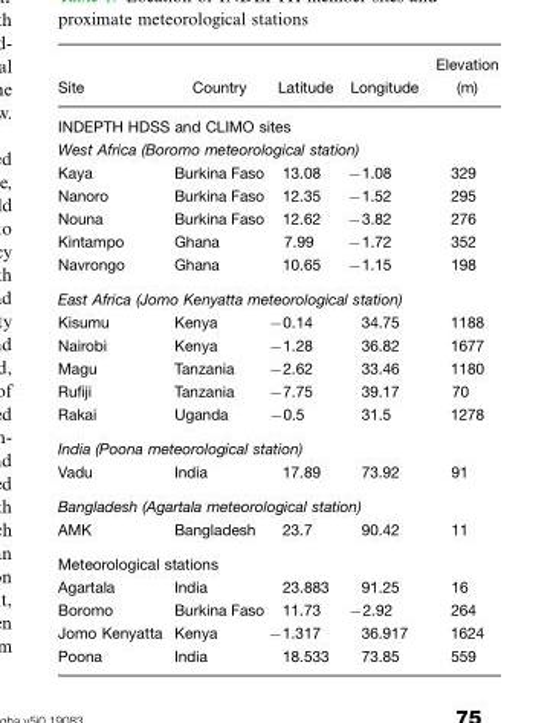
<table><thead><tr><td>Site</td><td>Country</td><td>Latitude</td><td>Longitude</td><td>Elevation (m)</td></tr></thead><tbody><tr><td colspan="5">INDEPTH HDSS and CLIMO sites</td></tr><tr><td colspan="5">West Africa (Boromo meteorological station)</td></tr><tr><td>Kaya</td><td>Burkina Faso</td><td>13.08</td><td>−1.08</td><td>329</td></tr><tr><td>Nanoro</td><td>Burkina Faso</td><td>12.35</td><td>−1.52</td><td>295</td></tr><tr><td>Nouna</td><td>Burkina Faso</td><td>12.62</td><td>−3.82</td><td>276</td></tr><tr><td>Kintampo</td><td>Ghana</td><td>7.99</td><td>−1.72</td><td>352</td></tr><tr><td>Navrongo</td><td>Ghana</td><td>10.65</td><td>−1.15</td><td>198</td></tr><tr><td colspan="5">East Africa (Jomo Kenyatta meteorological station)</td></tr><tr><td>Kisumu</td><td>Kenya</td><td>−0.14</td><td>34.75</td><td>1188</td></tr><tr><td>Nairobi</td><td>Kenya</td><td>−1.28</td><td>36.82</td><td>1677</td></tr><tr><td>Magu</td><td>Tanzania</td><td>−2.62</td><td>33.46</td><td>1180</td></tr><tr><td>Rufiji</td><td>Tanzania</td><td>−7.75</td><td>39.17</td><td>70</td></tr><tr><td>Rakai</td><td>Uganda</td><td>−0.5</td><td>31.5</td><td>1278</td></tr><tr><td colspan="5">India (Poona meteorological station)</td></tr><tr><td>Vadu</td><td>India</td><td>17.89</td><td>73.92</td><td>91</td></tr><tr><td colspan="5">Bangladesh (Agartala meteorological station)</td></tr><tr><td>AMK</td><td>Bangladesh</td><td>23.7</td><td>90.42</td><td>11</td></tr><tr><td colspan="5">Meteorological stations</td></tr><tr><td>Agartala</td><td>India</td><td>23.883</td><td>91.25</td><td>16</td></tr><tr><td>Boromo</td><td>Burkina Faso</td><td>11.73</td><td>−2.92</td><td>264</td></tr><tr><td>Jomo Kenyatta</td><td>Kenya</td><td>−1.317</td><td>36.917</td><td>1624</td></tr><tr><td>Poona</td><td>India</td><td>18.533</td><td>73.85</td><td>559</td></tr></tbody></table>